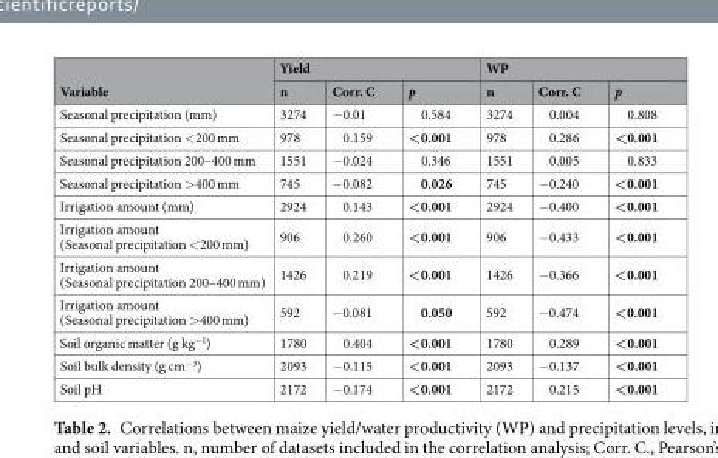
<table><thead><tr><td rowspan="2">Variable</td><td colspan="3">Yield</td><td colspan="3">WP</td></tr><tr><td>n</td><td>Corr. C</td><td>p</td><td>n</td><td>Corr. C</td><td>p</td></tr></thead><tbody><tr><td>Seasonal precipitation (mm)</td><td>3274</td><td>−0.01</td><td>0.584</td><td>3274</td><td>0.004</td><td>0.808</td></tr><tr><td>Seasonal precipitation &lt;200 mm</td><td>978</td><td>0.159</td><td>&lt;0.001</td><td>978</td><td>0.286</td><td>&lt;0.001</td></tr><tr><td>Seasonal precipitation 200–400 mm</td><td>1551</td><td>−0.024</td><td>0.346</td><td>1551</td><td>0.005</td><td>0.833</td></tr><tr><td>Seasonal precipitation &gt;400 mm</td><td>745</td><td>−0.082</td><td>0.026</td><td>745</td><td>−0.240</td><td>&lt;0.001</td></tr><tr><td>Irrigation amount (mm)</td><td>2924</td><td>0.143</td><td>&lt;0.001</td><td>2924</td><td>−0.400</td><td>&lt;0.001</td></tr><tr><td>Irrigation amount (Seasonal precipitation &lt;200 mm)</td><td>906</td><td>0.260</td><td>&lt;0.001</td><td>906</td><td>−0.433</td><td>&lt;0.001</td></tr><tr><td>Irrigation amount (Seasonal precipitation 200–400 mm)</td><td>1426</td><td>0.219</td><td>&lt;0.001</td><td>1426</td><td>−0.366</td><td>&lt;0.001</td></tr><tr><td>Irrigation amount (Seasonal precipitation &gt;400 mm)</td><td>592</td><td>−0.081</td><td>0.050</td><td>592</td><td>−0.474</td><td>&lt;0.001</td></tr><tr><td>Soil organic matter (g kg<sup>−1</sup>)</td><td>1780</td><td>0.404</td><td>&lt;0.001</td><td>1780</td><td>0.289</td><td>&lt;0.001</td></tr><tr><td>Soil bulk density (g cm<sup>−3</sup>)</td><td>2093</td><td>−0.115</td><td>&lt;0.001</td><td>2093</td><td>−0.137</td><td>&lt;0.001</td></tr><tr><td>Soil pH</td><td>2172</td><td>−0.174</td><td>&lt;0.001</td><td>2172</td><td>0.215</td><td>&lt;0.001</td></tr></tbody></table>